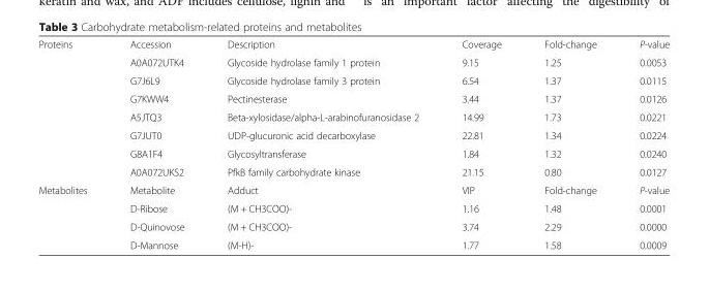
<table><tbody><tr><td rowspan="8">Proteins</td><td>Accession</td><td>Description</td><td>Coverage</td><td>Fold-change</td><td>P-value</td></tr><tr><td>A0A072UTK4</td><td>Glycoside hydrolase family 1 protein</td><td>9.15</td><td>1.25</td><td>0.0053</td></tr><tr><td>G7J6L9</td><td>Glycoside hydrolase family 3 protein</td><td>6.54</td><td>1.37</td><td>0.0115</td></tr><tr><td>G7KWW4</td><td>Pectinesterase</td><td>3.44</td><td>1.37</td><td>0.0126</td></tr><tr><td>A5JTQ3</td><td>Beta-xylosidase/alpha-L-arabinofuranosidase 2</td><td>14.99</td><td>1.73</td><td>0.0221</td></tr><tr><td>G7JUT0</td><td>UDP-glucuronic acid decarboxylase</td><td>22.81</td><td>1.34</td><td>0.0224</td></tr><tr><td>G8A1F4</td><td>Glycosyltransferase</td><td>1.84</td><td>1.32</td><td>0.0240</td></tr><tr><td>A0A072UKS2</td><td>PfkB family carbohydrate kinase</td><td>21.15</td><td>0.80</td><td>0.0127</td></tr><tr><td rowspan="4">Metabolites</td><td>Metabolite</td><td>Adduct</td><td>VIP</td><td>Fold-change</td><td>P-value</td></tr><tr><td>D-Ribose</td><td>(M + CH3COO)-</td><td>1.16</td><td>1.48</td><td>0.0001</td></tr><tr><td>D-Quinovose</td><td>(M + CH3COO)-</td><td>3.74</td><td>2.29</td><td>0.0000</td></tr><tr><td>D-Mannose</td><td>(M-H)-</td><td>1.77</td><td>1.58</td><td>0.0009</td></tr></tbody></table>